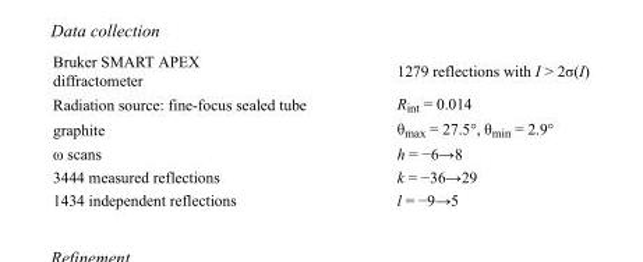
<table><tbody><tr><td>Bruker SMART APEX diffractometer</td><td>1279 reflections with I &gt; 2σ(I)</td></tr><tr><td>Radiation source: fine-focus sealed tube</td><td>R<sub>int</sub> = 0.014</td></tr><tr><td>graphite</td><td>θ<sub>max</sub> = 27.5°, θ<sub>min</sub> = 2.9°</td></tr><tr><td>ω scans</td><td>h = −6→8</td></tr><tr><td>3444 measured reflections</td><td>k = −36→29</td></tr><tr><td>1434 independent reflections</td><td>l = −9→5</td></tr></tbody></table>